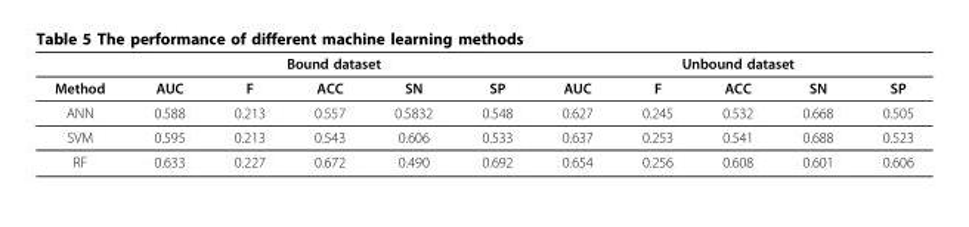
<table><thead><tr><td rowspan="2">Method</td><td colspan="5">Bound dataset</td><td colspan="5">Unbound dataset</td></tr><tr><td>AUC</td><td>F</td><td>ACC</td><td>SN</td><td>SP</td><td>AUC</td><td>F</td><td>ACC</td><td>SN</td><td>SP</td></tr></thead><tbody><tr><td>ANN</td><td>0.588</td><td>0.213</td><td>0.557</td><td>0.5832</td><td>0.548</td><td>0.627</td><td>0.245</td><td>0.532</td><td>0.668</td><td>0.505</td></tr><tr><td>SVM</td><td>0.595</td><td>0.213</td><td>0.543</td><td>0.606</td><td>0.533</td><td>0.637</td><td>0.253</td><td>0.541</td><td>0.688</td><td>0.523</td></tr><tr><td>RF</td><td>0.633</td><td>0.227</td><td>0.672</td><td>0.490</td><td>0.692</td><td>0.654</td><td>0.256</td><td>0.608</td><td>0.601</td><td>0.606</td></tr></tbody></table>